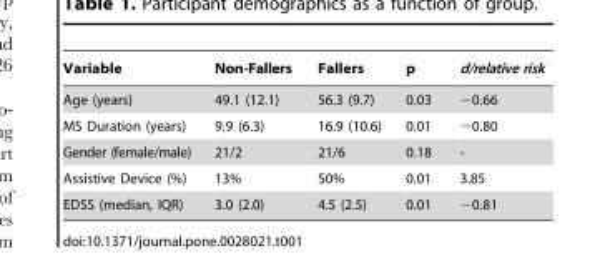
<table><thead><tr><td>Variable</td><td>Non-Fallers</td><td>Fallers</td><td>p</td><td>d/relative risk</td></tr></thead><tbody><tr><td>Age (years)</td><td>49.1 (12.1)</td><td>56.3 (9.7)</td><td>0.03</td><td>−0.66</td></tr><tr><td>MS Duration (years)</td><td>9.9 (6.3)</td><td>16.9 (10.6)</td><td>0.01</td><td>−0.80</td></tr><tr><td>Gender (female/male)</td><td>21/2</td><td>21/6</td><td>0.18</td><td>-</td></tr><tr><td>Assistive Device (%)</td><td>13%</td><td>50%</td><td>0.01</td><td>3.85</td></tr><tr><td>EDSS (median, IQR)</td><td>3.0 (2.0)</td><td>4.5 (2.5)</td><td>0.01</td><td>−0.81</td></tr></tbody></table>